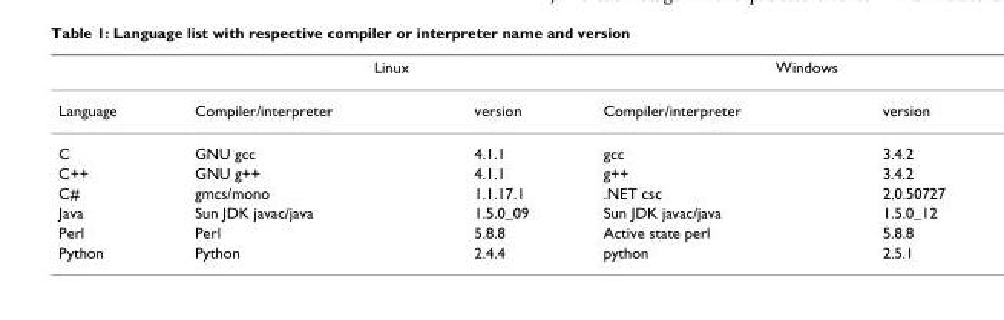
<table><thead><tr><td rowspan="2">Language</td><td colspan="2">Linux</td><td colspan="2">Windows</td></tr><tr><td>Compiler/interpreter</td><td>version</td><td>Compiler/interpreter</td><td>version</td></tr></thead><tbody><tr><td>C</td><td>GNU gcc</td><td>4.1.1</td><td>gcc</td><td>3.4.2</td></tr><tr><td>C++</td><td>GNU g++</td><td>4.1.1</td><td>g++</td><td>3.4.2</td></tr><tr><td>C#</td><td>gmcs/mono</td><td>1.1.17.1</td><td>.NET csc</td><td>2.0.50727</td></tr><tr><td>Java</td><td>Sun JDK javac/java</td><td>1.5.0_09</td><td>Sun JDK javac/java</td><td>1.5.0_12</td></tr><tr><td>Perl</td><td>Perl</td><td>5.8.8</td><td>Active state perl</td><td>5.8.8</td></tr><tr><td>Python</td><td>Python</td><td>2.4.4</td><td>python</td><td>2.5.1</td></tr></tbody></table>